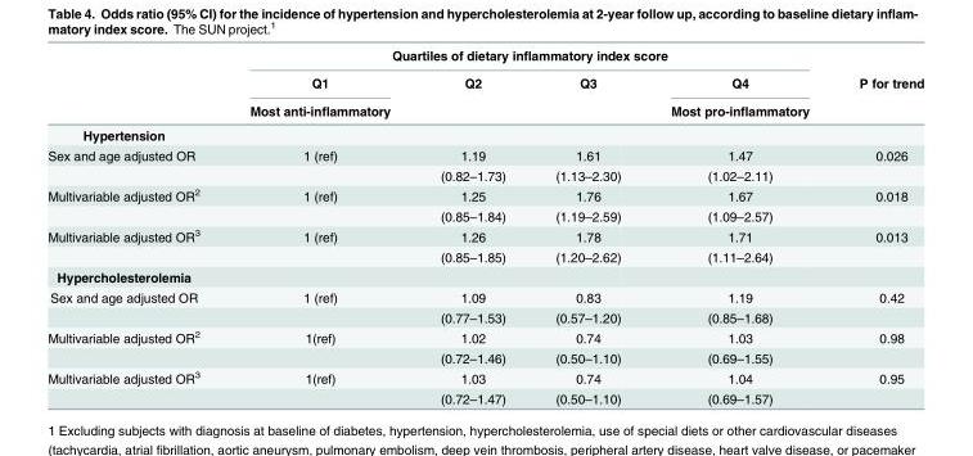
<table><thead><tr><td rowspan="3"></td><td colspan="4">Quartiles of dietary inflammatory index score</td><td rowspan="3">P for trend</td></tr><tr><td rowspan="2">Q1 Most anti-inflammatory</td><td rowspan="2">Q2</td><td rowspan="2">Q3</td><td rowspan="2">Q4 Most pro-inflammatory</td></tr><tr></tr></thead><tbody><tr><td colspan="6">Hypertension</td></tr><tr><td rowspan="2">Sex and age adjusted OR</td><td>1 (ref)</td><td>1.19</td><td>1.61</td><td>1.47</td><td>0.026</td></tr><tr><td></td><td>(0.82–1.73)</td><td>(1.13–2.30)</td><td>(1.02–2.11)</td><td></td></tr><tr><td rowspan="2">Multivariable adjusted OR<sup>2</sup></td><td>1 (ref)</td><td>1.25</td><td>1.76</td><td>1.67</td><td>0.018</td></tr><tr><td></td><td>(0.85–1.84)</td><td>(1.19–2.59)</td><td>(1.09–2.57)</td><td></td></tr><tr><td rowspan="2">Multivariable adjusted OR<sup>3</sup></td><td>1 (ref)</td><td>1.26</td><td>1.78</td><td>1.71</td><td>0.013</td></tr><tr><td></td><td>(0.85–1.85)</td><td>(1.20–2.62)</td><td>(1.11–2.64)</td><td></td></tr><tr><td colspan="6">Hypercholesterolemia</td></tr><tr><td rowspan="2">Sex and age adjusted OR</td><td>1 (ref)</td><td>1.09</td><td>0.83</td><td>1.19</td><td>0.42</td></tr><tr><td></td><td>(0.77–1.53)</td><td>(0.57–1.20)</td><td>(0.85–1.68)</td><td></td></tr><tr><td rowspan="2">Multivariable adjusted OR<sup>2</sup></td><td>1(ref)</td><td>1.02</td><td>0.74</td><td>1.03</td><td>0.98</td></tr><tr><td></td><td>(0.72–1.46)</td><td>(0.50–1.10)</td><td>(0.69–1.55)</td><td></td></tr><tr><td rowspan="2">Multivariable adjusted OR<sup>3</sup></td><td>1(ref)</td><td>1.03</td><td>0.74</td><td>1.04</td><td>0.95</td></tr><tr><td></td><td>(0.72–1.47)</td><td>(0.50–1.10)</td><td>(0.69–1.57)</td><td></td></tr></tbody></table>